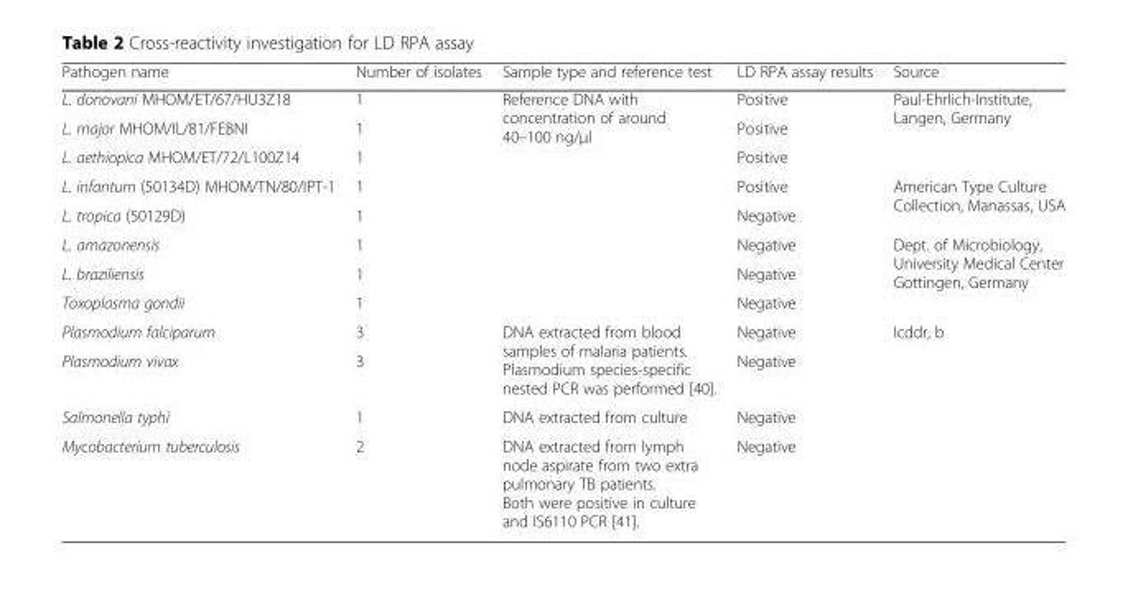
<table><thead><tr><td>Pathogen name</td><td>Number of isolates</td><td>Sample type and reference test</td><td>LD RPA assay results</td><td>Source</td></tr></thead><tbody><tr><td>L. donovani MHOM/ET/67/HU3Z18</td><td>1</td><td rowspan="8">Reference DNA with concentration of around 40–100 ng/μl</td><td>Positive</td><td rowspan="3">Paul-Ehrlich-Institute, Langen, Germany</td></tr><tr><td>L. major MHOM/IL/81/FEBNI</td><td>1</td><td>Positive</td></tr><tr><td>L. aethiopica MHOM/ET/72/L100Z14</td><td>1</td><td>Positive</td></tr><tr><td>L. infantum (50134D) MHOM/TN/80/IPT-1</td><td>1</td><td>Positive</td><td rowspan="2">American Type Culture Collection, Manassas, USA</td></tr><tr><td>L. tropica (50129D)</td><td>1</td><td>Negative</td></tr><tr><td>L. amazonensis</td><td>1</td><td>Negative</td><td rowspan="3">Dept. of Microbiology, University Medical Center Gottingen, Germany</td></tr><tr><td>L. braziliensis</td><td>1</td><td>Negative</td></tr><tr><td>Toxoplasma gondii</td><td>1</td><td>Negative</td></tr><tr><td>Plasmodium falciparum</td><td>3</td><td rowspan="2">DNA extracted from blood samples of malaria patients. Plasmodium species-specific nested PCR was performed [40].</td><td>Negative</td><td rowspan="4">Icddr, b</td></tr><tr><td>Plasmodium vivax</td><td>3</td><td>Negative</td></tr><tr><td>Salmonella typhi</td><td>1</td><td>DNA extracted from culture</td><td>Negative</td></tr><tr><td>Mycobacterium tuberculosis</td><td>2</td><td>DNA extracted from lymph node aspirate from two extra pulmonary TB patients. Both were positive in culture and IS6110 PCR [41].</td><td>Negative</td></tr></tbody></table>